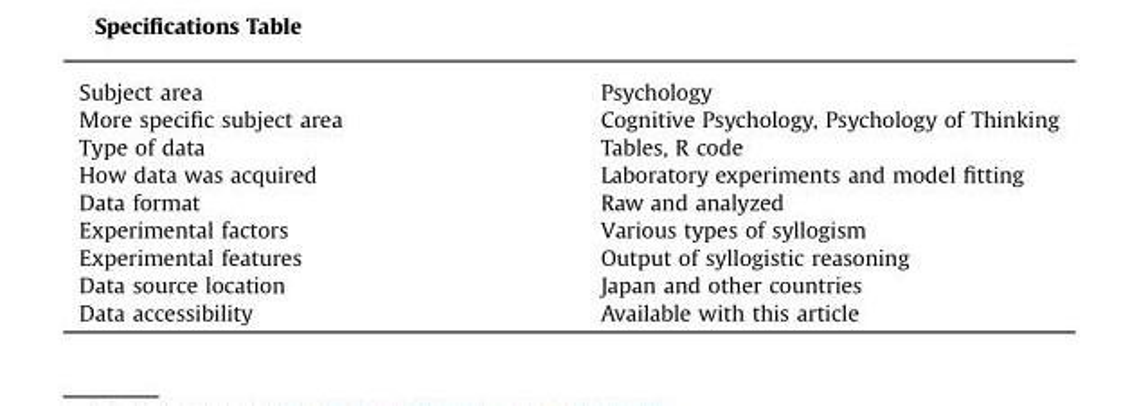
<table><tbody><tr><td>Subject area</td><td>Psychology</td></tr><tr><td>More specific subject area</td><td>Cognitive Psychology, Psychology of Thinking</td></tr><tr><td>Type of data</td><td>Tables, R code</td></tr><tr><td>How data was acquired</td><td>Laboratory experiments and model fitting</td></tr><tr><td>Data format</td><td>Raw and analyzed</td></tr><tr><td>Experimental factors</td><td>Various types of syllogism</td></tr><tr><td>Experimental features</td><td>Output of syllogistic reasoning</td></tr><tr><td>Data source location</td><td>Japan and other countries</td></tr><tr><td>Data accessibility</td><td>Available with this article</td></tr></tbody></table>